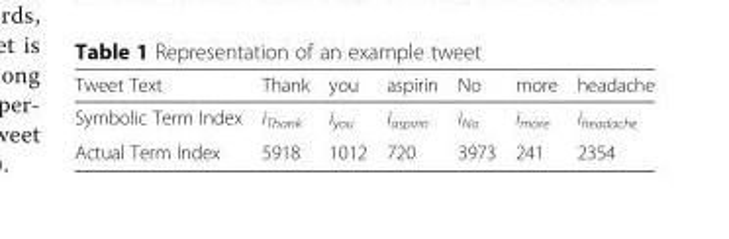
<table><thead><tr><td>Tweet Text</td><td>Thank</td><td>you</td><td>aspirin</td><td>No</td><td>more</td><td>headache</td></tr></thead><tbody><tr><td>Symbolic Term Index</td><td>i<sub>Thank</sub></td><td>i<sub>you</sub></td><td>i<sub>aspirin</sub></td><td>i<sub>No</sub></td><td>i<sub>more</sub></td><td>i<sub>headache</sub></td></tr><tr><td>Actual Term Index</td><td>5918</td><td>1012</td><td>720</td><td>3973</td><td>241</td><td>2354</td></tr></tbody></table>